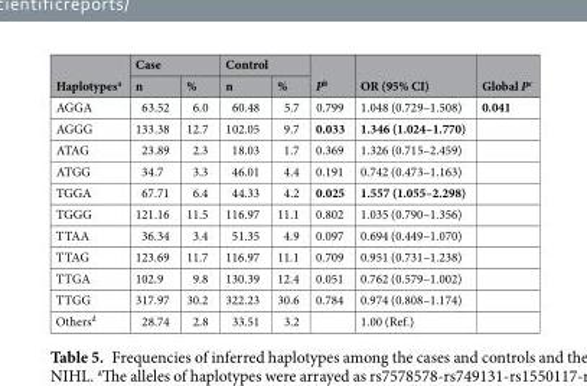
<table><thead><tr><td rowspan="2">Haplotypes<sup>a</sup></td><td colspan="2">Case</td><td colspan="2">Control</td><td rowspan="2">P<sup>b</sup></td><td rowspan="2">OR (95% CI)</td><td rowspan="2">Global P<sup>c</sup></td></tr><tr><td>n</td><td>%</td><td>n</td><td>%</td></tr></thead><tbody><tr><td>AGGA</td><td>63.52</td><td>6.0</td><td>60.48</td><td>5.7</td><td>0.799</td><td>1.048 (0.729–1.508)</td><td>0.041</td></tr><tr><td>AGGG</td><td>133.38</td><td>12.7</td><td>102.05</td><td>9.7</td><td>0.033</td><td>1.346 (1.024–1.770)</td><td></td></tr><tr><td>ATAG</td><td>23.89</td><td>2.3</td><td>18.03</td><td>1.7</td><td>0.369</td><td>1.326 (0.715–2.459)</td><td></td></tr><tr><td>ATGG</td><td>34.7</td><td>3.3</td><td>46.01</td><td>4.4</td><td>0.191</td><td>0.742 (0.473–1.163)</td><td></td></tr><tr><td>TGGA</td><td>67.71</td><td>6.4</td><td>44.33</td><td>4.2</td><td>0.025</td><td>1.557 (1.055–2.298)</td><td></td></tr><tr><td>TGGG</td><td>121.16</td><td>11.5</td><td>116.97</td><td>11.1</td><td>0.802</td><td>1.035 (0.790–1.356)</td><td></td></tr><tr><td>TTAA</td><td>36.34</td><td>3.4</td><td>51.35</td><td>4.9</td><td>0.097</td><td>0.694 (0.449–1.070)</td><td></td></tr><tr><td>TTAG</td><td>123.69</td><td>11.7</td><td>116.97</td><td>11.1</td><td>0.709</td><td>0.951 (0.731–1.238)</td><td></td></tr><tr><td>TTGA</td><td>102.9</td><td>9.8</td><td>130.39</td><td>12.4</td><td>0.051</td><td>0.762 (0.579–1.002)</td><td></td></tr><tr><td>TTGG</td><td>317.97</td><td>30.2</td><td>322.23</td><td>30.6</td><td>0.784</td><td>0.974 (0.808–1.174)</td><td></td></tr><tr><td>Others<sup>d</sup></td><td>28.74</td><td>2.8</td><td>33.51</td><td>3.2</td><td></td><td>1.00 (Ref.)</td><td></td></tr></tbody></table>